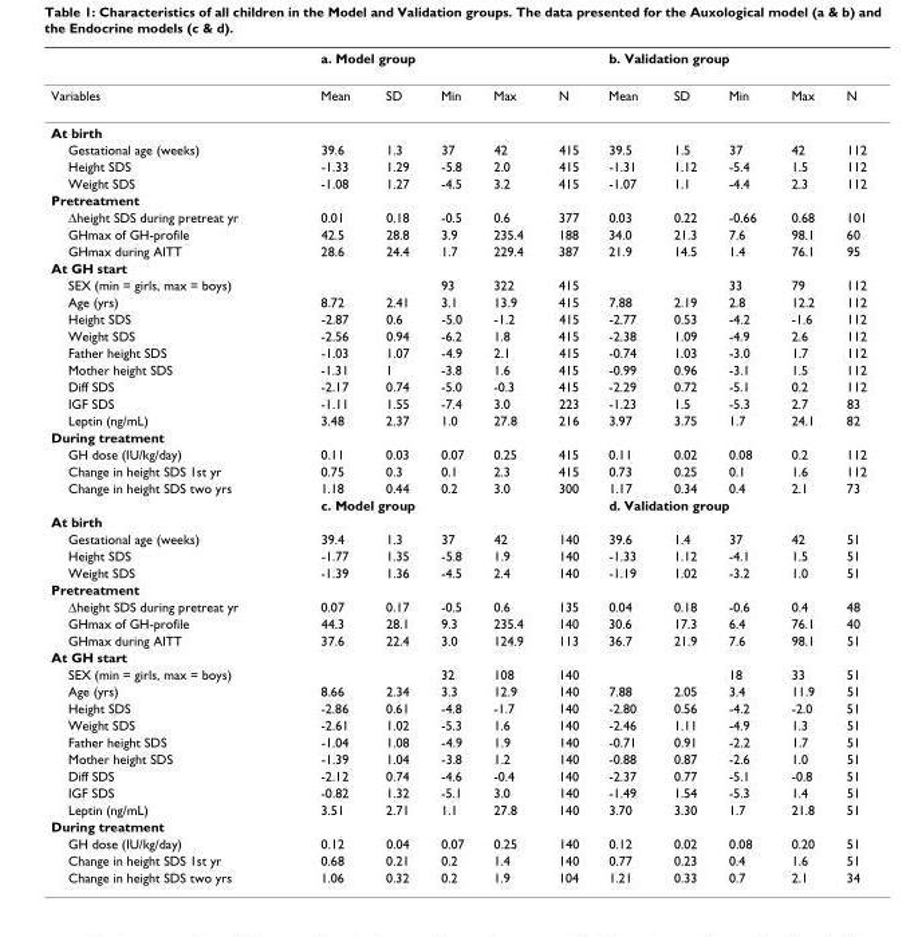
<table><thead><tr><td rowspan="2">Variables</td><td colspan="5">a. Model group</td><td colspan="5">b. Validation group</td></tr><tr><td>Mean</td><td>SD</td><td>Min</td><td>Max</td><td>N</td><td>Mean</td><td>SD</td><td>Min</td><td>Max</td><td>N</td></tr></thead><tbody><tr><td colspan="11">At birth</td></tr><tr><td>Gestational age (weeks)</td><td>39.6</td><td>1.3</td><td>37</td><td>42</td><td>415</td><td>39.5</td><td>1.5</td><td>37</td><td>42</td><td>112</td></tr><tr><td>Height SDS</td><td>-1.33</td><td>1.29</td><td>-5.8</td><td>2.0</td><td>415</td><td>-1.31</td><td>1.12</td><td>-5.4</td><td>1.5</td><td>112</td></tr><tr><td>Weight SDS</td><td>-1.08</td><td>1.27</td><td>-4.5</td><td>3.2</td><td>415</td><td>-1.07</td><td>1.1</td><td>-4.4</td><td>2.3</td><td>112</td></tr><tr><td colspan="11">Pretreatment</td></tr><tr><td>Δheight SDS during pretreat yr</td><td>0.01</td><td>0.18</td><td>-0.5</td><td>0.6</td><td>377</td><td>0.03</td><td>0.22</td><td>-0.66</td><td>0.68</td><td>101</td></tr><tr><td>GHmax of GH-profile</td><td>42.5</td><td>28.8</td><td>3.9</td><td>235.4</td><td>188</td><td>34.0</td><td>21.3</td><td>7.6</td><td>98.1</td><td>60</td></tr><tr><td>GHmax during AITT</td><td>28.6</td><td>24.4</td><td>1.7</td><td>229.4</td><td>387</td><td>21.9</td><td>14.5</td><td>1.4</td><td>76.1</td><td>95</td></tr><tr><td colspan="11">At GH start</td></tr><tr><td>SEX (min = girls, max = boys)</td><td></td><td></td><td>93</td><td>322</td><td>415</td><td></td><td></td><td>33</td><td>79</td><td>112</td></tr><tr><td>Age (yrs)</td><td>8.72</td><td>2.41</td><td>3.1</td><td>13.9</td><td>415</td><td>7.88</td><td>2.19</td><td>2.8</td><td>12.2</td><td>112</td></tr><tr><td>Height SDS</td><td>-2.87</td><td>0.6</td><td>-5.0</td><td>-1.2</td><td>415</td><td>-2.77</td><td>0.53</td><td>-4.2</td><td>-1.6</td><td>112</td></tr><tr><td>Weight SDS</td><td>-2.56</td><td>0.94</td><td>-6.2</td><td>1.8</td><td>415</td><td>-2.38</td><td>1.09</td><td>-4.9</td><td>2.6</td><td>112</td></tr><tr><td>Father height SDS</td><td>-1.03</td><td>1.07</td><td>-4.9</td><td>2.1</td><td>415</td><td>-0.74</td><td>1.03</td><td>-3.0</td><td>1.7</td><td>112</td></tr><tr><td>Mother height SDS</td><td>-1.31</td><td>1</td><td>-3.8</td><td>1.6</td><td>415</td><td>-0.99</td><td>0.96</td><td>-3.1</td><td>1.5</td><td>112</td></tr><tr><td>Diff SDS</td><td>-2.17</td><td>0.74</td><td>-5.0</td><td>-0.3</td><td>415</td><td>-2.29</td><td>0.72</td><td>-5.1</td><td>0.2</td><td>112</td></tr><tr><td>IGF SDS</td><td>-1.11</td><td>1.55</td><td>-7.4</td><td>3.0</td><td>223</td><td>-1.23</td><td>1.5</td><td>-5.3</td><td>2.7</td><td>83</td></tr><tr><td>Leptin (ng/mL)</td><td>3.48</td><td>2.37</td><td>1.0</td><td>27.8</td><td>216</td><td>3.97</td><td>3.75</td><td>1.7</td><td>24.1</td><td>82</td></tr><tr><td colspan="11">During treatment</td></tr><tr><td>GH dose (IU/kg/day)</td><td>0.11</td><td>0.03</td><td>0.07</td><td>0.25</td><td>415</td><td>0.11</td><td>0.02</td><td>0.08</td><td>0.2</td><td>112</td></tr><tr><td>Change in height SDS 1st yr</td><td>0.75</td><td>0.3</td><td>0.1</td><td>2.3</td><td>415</td><td>0.73</td><td>0.25</td><td>0.1</td><td>1.6</td><td>112</td></tr><tr><td rowspan="2">Change in height SDS two yrs</td><td>1.18</td><td>0.44</td><td>0.2</td><td>3.0</td><td>300</td><td>1.17</td><td>0.34</td><td>0.4</td><td>2.1</td><td>73</td></tr><tr><td colspan="5">c. Model group</td><td colspan="5">d. Validation group</td></tr><tr><td colspan="11">At birth</td></tr><tr><td>Gestational age (weeks)</td><td>39.4</td><td>1.3</td><td>37</td><td>42</td><td>140</td><td>39.6</td><td>1.4</td><td>37</td><td>42</td><td>51</td></tr><tr><td>Height SDS</td><td>-1.77</td><td>1.35</td><td>-5.8</td><td>1.9</td><td>140</td><td>-1.33</td><td>1.12</td><td>-4.1</td><td>1.5</td><td>51</td></tr><tr><td>Weight SDS</td><td>-1.39</td><td>1.36</td><td>-4.5</td><td>2.4</td><td>140</td><td>-1.19</td><td>1.02</td><td>-3.2</td><td>1.0</td><td>51</td></tr><tr><td colspan="11">Pretreatment</td></tr><tr><td>Δheight SDS during pretreat yr</td><td>0.07</td><td>0.17</td><td>-0.5</td><td>0.6</td><td>135</td><td>0.04</td><td>0.18</td><td>-0.6</td><td>0.4</td><td>48</td></tr><tr><td>GHmax of GH-profile</td><td>44.3</td><td>28.1</td><td>9.3</td><td>235.4</td><td>140</td><td>30.6</td><td>17.3</td><td>6.4</td><td>76.1</td><td>40</td></tr><tr><td>GHmax during AITT</td><td>37.6</td><td>22.4</td><td>3.0</td><td>124.9</td><td>113</td><td>36.7</td><td>21.9</td><td>7.6</td><td>98.1</td><td>51</td></tr><tr><td colspan="11">At GH start</td></tr><tr><td>SEX (min = girls, max = boys)</td><td></td><td></td><td>32</td><td>108</td><td>140</td><td></td><td></td><td>18</td><td>33</td><td>51</td></tr><tr><td>Age (yrs)</td><td>8.66</td><td>2.34</td><td>3.3</td><td>12.9</td><td>140</td><td>7.88</td><td>2.05</td><td>3.4</td><td>11.9</td><td>51</td></tr><tr><td>Height SDS</td><td>-2.86</td><td>0.61</td><td>-4.8</td><td>-1.7</td><td>140</td><td>-2.80</td><td>0.56</td><td>-4.2</td><td>-2.0</td><td>51</td></tr><tr><td>Weight SDS</td><td>-2.61</td><td>1.02</td><td>-5.3</td><td>1.6</td><td>140</td><td>-2.46</td><td>1.11</td><td>-4.9</td><td>1.3</td><td>51</td></tr><tr><td>Father height SDS</td><td>-1.04</td><td>1.08</td><td>-4.9</td><td>1.9</td><td>140</td><td>-0.71</td><td>0.91</td><td>-2.2</td><td>1.7</td><td>51</td></tr><tr><td>Mother height SDS</td><td>-1.39</td><td>1.04</td><td>-3.8</td><td>1.2</td><td>140</td><td>-0.88</td><td>0.87</td><td>-2.6</td><td>1.0</td><td>51</td></tr><tr><td>Diff SDS</td><td>-2.12</td><td>0.74</td><td>-4.6</td><td>-0.4</td><td>140</td><td>-2.37</td><td>0.77</td><td>-5.1</td><td>-0.8</td><td>51</td></tr><tr><td>IGF SDS</td><td>-0.82</td><td>1.32</td><td>-5.1</td><td>3.0</td><td>140</td><td>-1.49</td><td>1.54</td><td>-5.3</td><td>1.4</td><td>51</td></tr><tr><td>Leptin (ng/mL)</td><td>3.51</td><td>2.71</td><td>1.1</td><td>27.8</td><td>140</td><td>3.70</td><td>3.30</td><td>1.7</td><td>21.8</td><td>51</td></tr><tr><td colspan="11">During treatment</td></tr><tr><td>GH dose (IU/kg/day)</td><td>0.12</td><td>0.04</td><td>0.07</td><td>0.25</td><td>140</td><td>0.12</td><td>0.02</td><td>0.08</td><td>0.20</td><td>51</td></tr><tr><td>Change in height SDS 1st yr</td><td>0.68</td><td>0.21</td><td>0.2</td><td>1.4</td><td>140</td><td>0.77</td><td>0.23</td><td>0.4</td><td>1.6</td><td>51</td></tr><tr><td>Change in height SDS two yrs</td><td>1.06</td><td>0.32</td><td>0.2</td><td>1.9</td><td>104</td><td>1.21</td><td>0.33</td><td>0.7</td><td>2.1</td><td>34</td></tr></tbody></table>